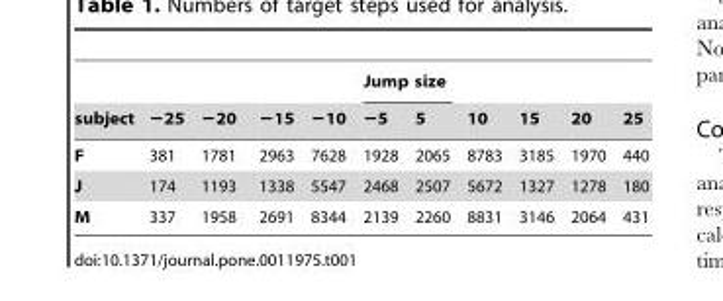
<table><thead><tr><td rowspan="2">subject</td><td rowspan="2">−25</td><td rowspan="2">−20</td><td rowspan="2">−15</td><td rowspan="2">−10</td><td colspan="2">Jump size</td><td rowspan="2">10</td><td rowspan="2">15</td><td rowspan="2">20</td><td rowspan="2">25</td></tr><tr><td>−5</td><td>5</td></tr></thead><tbody><tr><td>F</td><td>381</td><td>1781</td><td>2963</td><td>7628</td><td>1928</td><td>2065</td><td>8783</td><td>3185</td><td>1970</td><td>440</td></tr><tr><td>J</td><td>174</td><td>1193</td><td>1338</td><td>5547</td><td>2468</td><td>2507</td><td>5672</td><td>1327</td><td>1278</td><td>180</td></tr><tr><td>M</td><td>337</td><td>1958</td><td>2691</td><td>8344</td><td>2139</td><td>2260</td><td>8831</td><td>3146</td><td>2064</td><td>431</td></tr></tbody></table>